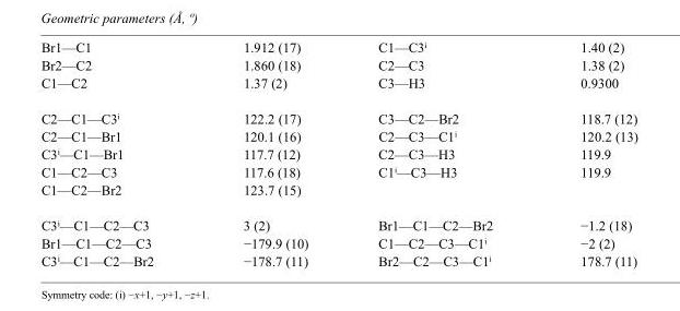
<table><tbody><tr><td>Br1—C1</td><td>1.912 (17)</td><td>C1—C3<sup>i</sup></td><td>1.40 (2)</td></tr><tr><td>Br2—C2</td><td>1.860 (18)</td><td>C2—C3</td><td>1.38 (2)</td></tr><tr><td>C1—C2</td><td>1.37 (2)</td><td>C3—H3</td><td>0.9300</td></tr><tr><td>C2—C1—C3<sup>i</sup></td><td>122.2 (17)</td><td>C3—C2—Br2</td><td>118.7 (12)</td></tr><tr><td>C2—C1—Br1</td><td>120.1 (16)</td><td>C2—C3—C1<sup>i</sup></td><td>120.2 (13)</td></tr><tr><td>C3<sup>i</sup>—C1—Br1</td><td>117.7 (12)</td><td>C2—C3—H3</td><td>119.9</td></tr><tr><td>C1—C2—C3</td><td>117.6 (18)</td><td>C1<sup>i</sup>—C3—H3</td><td>119.9</td></tr><tr><td>C1—C2—Br2</td><td>123.7 (15)</td><td></td><td></td></tr><tr><td>C3<sup>i</sup>—C1—C2—C3</td><td>3 (2)</td><td>Br1—C1—C2—Br2</td><td>−1.2 (18)</td></tr><tr><td>Br1—C1—C2—C3</td><td>−179.9 (10)</td><td>C1—C2—C3—C1<sup>i</sup></td><td>−2 (2)</td></tr><tr><td>C3<sup>i</sup>—C1—C2—Br2</td><td>−178.7 (11)</td><td>Br2—C2—C3—C1<sup>i</sup></td><td>178.7 (11)</td></tr></tbody></table>